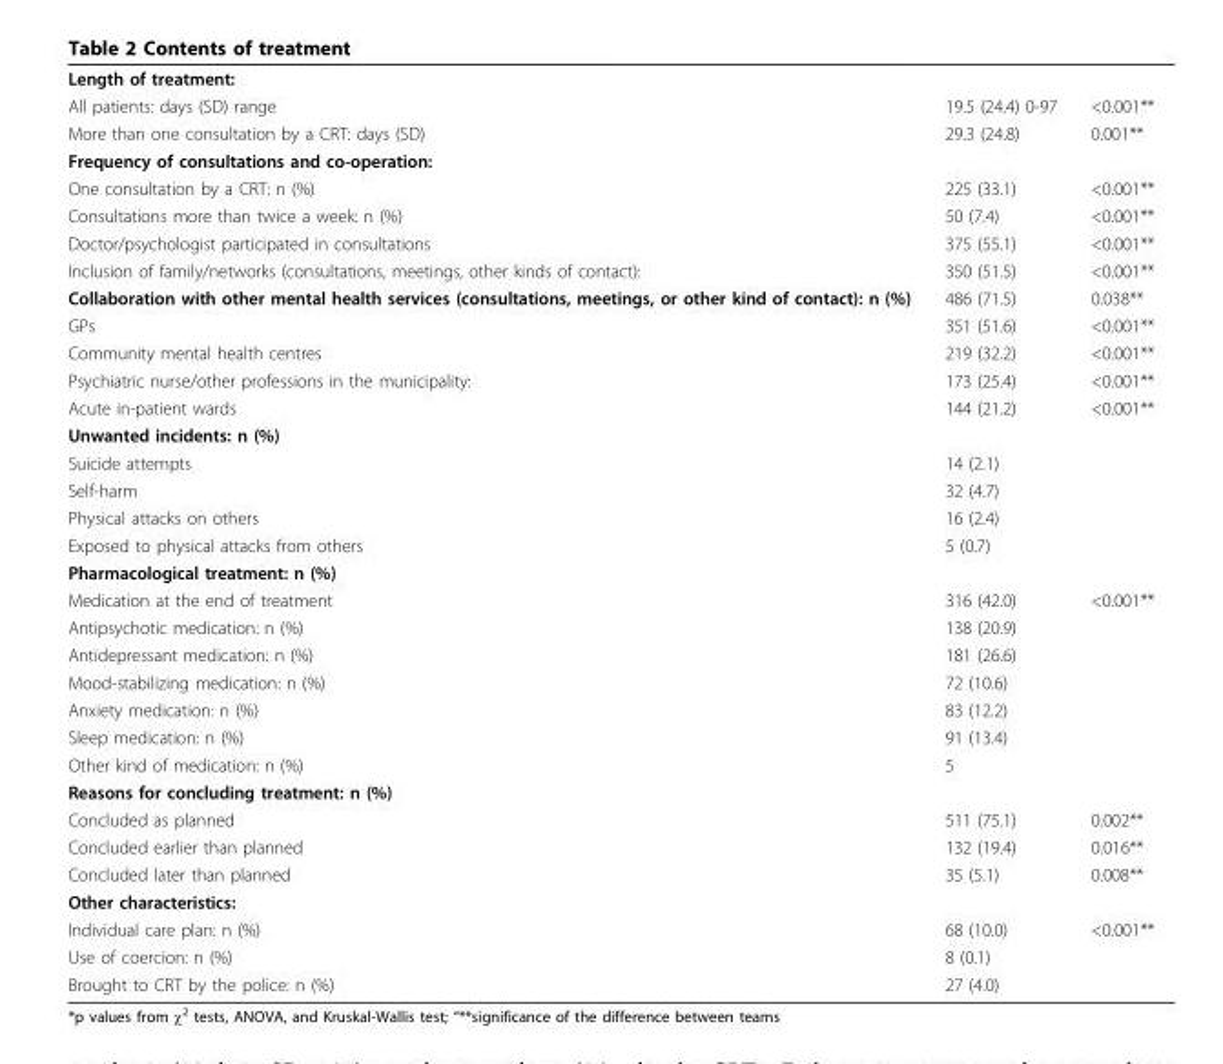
<table><tbody><tr><td colspan="3">Length of treatment:</td></tr><tr><td>All patients: days (SD) range</td><td>19.5 (24.4) 0-97</td><td>&lt;0.001**</td></tr><tr><td>More than one consultation by a CRT: days (SD)</td><td>29.3 (24.8)</td><td>0.001**</td></tr><tr><td colspan="3">Frequency of consultations and co-operation:</td></tr><tr><td>One consultation by a CRT: n (%)</td><td>225 (33.1)</td><td>&lt;0.001**</td></tr><tr><td>Consultations more than twice a week: n (%)</td><td>50 (7.4)</td><td>&lt;0.001**</td></tr><tr><td>Doctor/psychologist participated in consultations</td><td>375 (55.1)</td><td>&lt;0.001**</td></tr><tr><td>Inclusion of family/networks (consultations, meetings, other kinds of contact):</td><td>350 (51.5)</td><td>&lt;0.001**</td></tr><tr><td>Collaboration with other mental health services (consultations, meetings, or other kind of contact): n (%)</td><td>486 (71.5)</td><td>0.038**</td></tr><tr><td>GPs</td><td>351 (51.6)</td><td>&lt;0.001**</td></tr><tr><td>Community mental health centres</td><td>219 (32.2)</td><td>&lt;0.001**</td></tr><tr><td>Psychiatric nurse/other professions in the municipality:</td><td>173 (25.4)</td><td>&lt;0.001**</td></tr><tr><td>Acute in-patient wards</td><td>144 (21.2)</td><td>&lt;0.001**</td></tr><tr><td colspan="3">Unwanted incidents: n (%)</td></tr><tr><td>Suicide attempts</td><td>14 (2.1)</td><td></td></tr><tr><td>Self-harm</td><td>32 (4.7)</td><td></td></tr><tr><td>Physical attacks on others</td><td>16 (2.4)</td><td></td></tr><tr><td>Exposed to physical attacks from others</td><td>5 (0.7)</td><td></td></tr><tr><td colspan="3">Pharmacological treatment: n (%)</td></tr><tr><td>Medication at the end of treatment</td><td>316 (42.0)</td><td>&lt;0.001**</td></tr><tr><td>Antipsychotic medication: n (%)</td><td>138 (20.9)</td><td></td></tr><tr><td>Antidepressant medication: n (%)</td><td>181 (26.6)</td><td></td></tr><tr><td>Mood-stabilizing medication: n (%)</td><td>72 (10.6)</td><td></td></tr><tr><td>Anxiety medication: n (%)</td><td>83 (12.2)</td><td></td></tr><tr><td>Sleep medication: n (%)</td><td>91 (13.4)</td><td></td></tr><tr><td>Other kind of medication: n (%)</td><td>5</td><td></td></tr><tr><td colspan="3">Reasons for concluding treatment: n (%)</td></tr><tr><td>Concluded as planned</td><td>511 (75.1)</td><td>0.002**</td></tr><tr><td>Concluded earlier than planned</td><td>132 (19.4)</td><td>0.016**</td></tr><tr><td>Concluded later than planned</td><td>35 (5.1)</td><td>0.008**</td></tr><tr><td colspan="3">Other characteristics:</td></tr><tr><td>Individual care plan: n (%)</td><td>68 (10.0)</td><td>&lt;0.001**</td></tr><tr><td>Use of coercion: n (%)</td><td>8 (0.1)</td><td></td></tr><tr><td>Brought to CRT by the police: n (%)</td><td>27 (4.0)</td><td></td></tr></tbody></table>